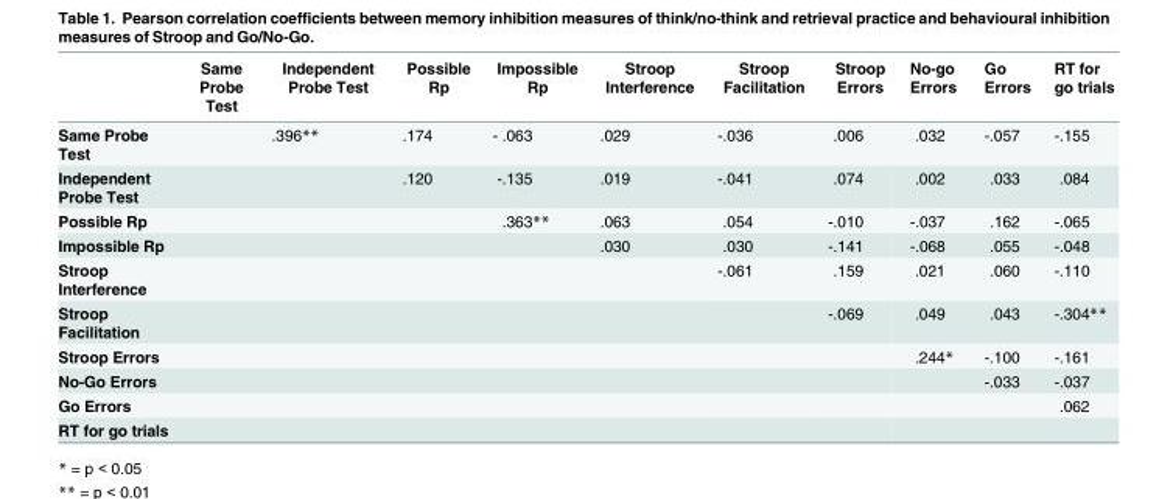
<table><thead><tr><td></td><td>Same Probe Test</td><td>Independent Probe Test</td><td>Possible Rp</td><td>Impossible Rp</td><td>Stroop Interference</td><td>Stroop Facilitation</td><td>Stroop Errors</td><td>No-go Errors</td><td>Go Errors</td><td>RT for go trials</td></tr></thead><tbody><tr><td>Same Probe Test</td><td></td><td>.396**</td><td>.174</td><td>- .063</td><td>.029</td><td>-.036</td><td>.006</td><td>.032</td><td>-.057</td><td>-.155</td></tr><tr><td>Independent Probe Test</td><td></td><td></td><td>.120</td><td>-.135</td><td>.019</td><td>-.041</td><td>.074</td><td>.002</td><td>.033</td><td>.084</td></tr><tr><td>Possible Rp</td><td></td><td></td><td></td><td>.363**</td><td>.063</td><td>.054</td><td>-.010</td><td>-.037</td><td>.162</td><td>-.065</td></tr><tr><td>Impossible Rp</td><td></td><td></td><td></td><td></td><td>.030</td><td>.030</td><td>-.141</td><td>-.068</td><td>.055</td><td>-.048</td></tr><tr><td>Stroop Interference</td><td></td><td></td><td></td><td></td><td></td><td>-.061</td><td>.159</td><td>.021</td><td>.060</td><td>-.110</td></tr><tr><td>Stroop Facilitation</td><td></td><td></td><td></td><td></td><td></td><td></td><td>-.069</td><td>.049</td><td>.043</td><td>-.304**</td></tr><tr><td>Stroop Errors</td><td></td><td></td><td></td><td></td><td></td><td></td><td></td><td>.244*</td><td>-.100</td><td>-.161</td></tr><tr><td>No-Go Errors</td><td></td><td></td><td></td><td></td><td></td><td></td><td></td><td></td><td>-.033</td><td>-.037</td></tr><tr><td>Go Errors</td><td></td><td></td><td></td><td></td><td></td><td></td><td></td><td></td><td></td><td>.062</td></tr><tr><td>RT for go trials</td><td></td><td></td><td></td><td></td><td></td><td></td><td></td><td></td><td></td><td></td></tr></tbody></table>